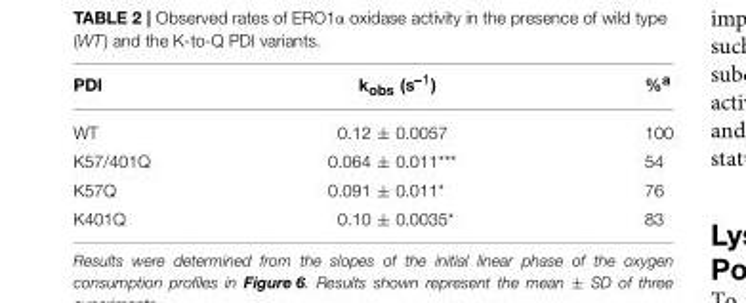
<table><thead><tr><td>PDI</td><td>kobs (s–1)</td><td>%<sup>a</sup></td></tr></thead><tbody><tr><td>WT</td><td>0.12 ± 0.0057</td><td>100</td></tr><tr><td>K57/401Q</td><td>0.064 ± 0.011***</td><td>54</td></tr><tr><td>K57Q</td><td>0.091 ± 0.011*</td><td>76</td></tr><tr><td>K401Q</td><td>0.10 ± 0.0035*</td><td>83</td></tr></tbody></table>